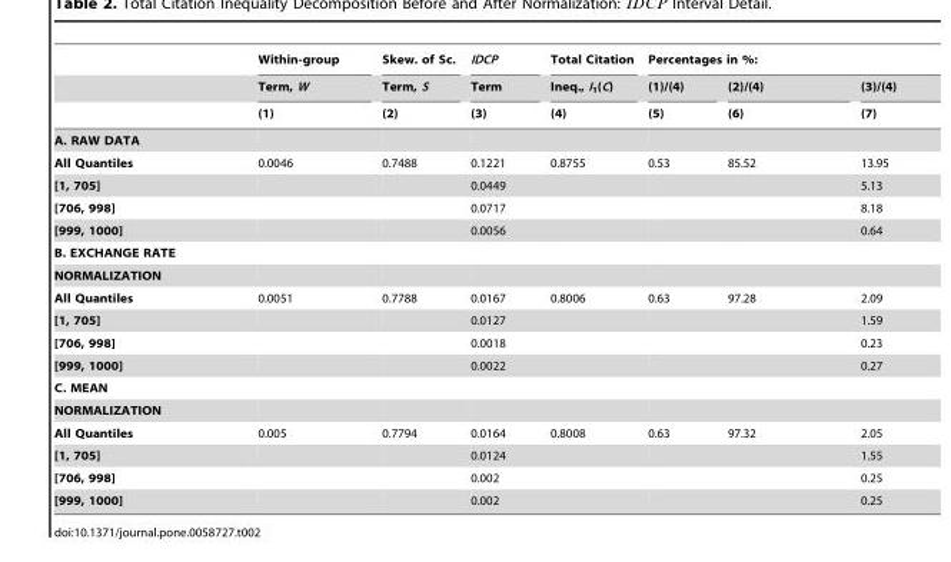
<table><thead><tr><td rowspan="3"></td><td rowspan="3">Within-group Term, W (1)</td><td rowspan="3">Skew. of Sc. Term, S (2)</td><td rowspan="3">IDCP Term (3)</td><td rowspan="3">Total Citation Ineq., I<sub>1</sub>(C) (4)</td><td colspan="3">Percentages in %:</td></tr><tr><td rowspan="2">(1)/(4) (5)</td><td rowspan="2">(2)/(4) (6)</td><td rowspan="2">(3)/(4) (7)</td></tr><tr></tr></thead><tbody><tr><td colspan="8">A. RAW DATA</td></tr><tr><td>All Quantiles</td><td>0.0046</td><td>0.7488</td><td>0.1221</td><td>0.8755</td><td>0.53</td><td>85.52</td><td>13.95</td></tr><tr><td>[1, 705]</td><td></td><td></td><td>0.0449</td><td></td><td></td><td></td><td>5.13</td></tr><tr><td>[706, 998]</td><td></td><td></td><td>0.0717</td><td></td><td></td><td></td><td>8.18</td></tr><tr><td>[999, 1000]</td><td></td><td></td><td>0.0056</td><td></td><td></td><td></td><td>0.64</td></tr><tr><td colspan="8">B. EXCHANGE RATE</td></tr><tr><td colspan="8">NORMALIZATION</td></tr><tr><td>All Quantiles</td><td>0.0051</td><td>0.7788</td><td>0.0167</td><td>0.8006</td><td>0.63</td><td>97.28</td><td>2.09</td></tr><tr><td>[1, 705]</td><td></td><td></td><td>0.0127</td><td></td><td></td><td></td><td>1.59</td></tr><tr><td>[706, 998]</td><td></td><td></td><td>0.0018</td><td></td><td></td><td></td><td>0.23</td></tr><tr><td>[999, 1000]</td><td></td><td></td><td>0.0022</td><td></td><td></td><td></td><td>0.27</td></tr><tr><td colspan="8">C. MEAN</td></tr><tr><td colspan="8">NORMALIZATION</td></tr><tr><td>All Quantiles</td><td>0.005</td><td>0.7794</td><td>0.0164</td><td>0.8008</td><td>0.63</td><td>97.32</td><td>2.05</td></tr><tr><td>[1, 705]</td><td></td><td></td><td>0.0124</td><td></td><td></td><td></td><td>1.55</td></tr><tr><td>[706, 998]</td><td></td><td></td><td>0.002</td><td></td><td></td><td></td><td>0.25</td></tr><tr><td>[999, 1000]</td><td></td><td></td><td>0.002</td><td></td><td></td><td></td><td>0.25</td></tr></tbody></table>